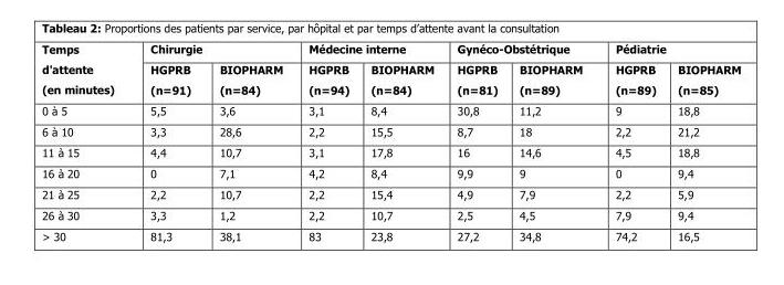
<table><thead><tr><td rowspan="2">Temps d&#x27;attente (en minutes)</td><td colspan="2">Chirurgie</td><td colspan="2">Médecine interne</td><td colspan="2">Gynéco-Obstétrique</td><td colspan="2">Pédiatrie</td></tr><tr><td>HGPRB (n=91)</td><td>BIOPHARM (n=84)</td><td>HGPRB (n=94)</td><td>BIOPHARM (n=84)</td><td>HGPRB (n=81)</td><td>BIOPHARM (n=89)</td><td>HGPRB (n=89)</td><td>BIOPHARM (n=85)</td></tr></thead><tbody><tr><td>0 à 5</td><td>5,5</td><td>3,6</td><td>3,1</td><td>8,4</td><td>30,8</td><td>11,2</td><td>9</td><td>18,8</td></tr><tr><td>6 à 10</td><td>3,3</td><td>28,6</td><td>2,2</td><td>15,5</td><td>8,7</td><td>18</td><td>2,2</td><td>21,2</td></tr><tr><td>11 à 15</td><td>4,4</td><td>10,7</td><td>3,1</td><td>17,8</td><td>16</td><td>14,6</td><td>4,5</td><td>18,8</td></tr><tr><td>16 à 20</td><td>0</td><td>7,1</td><td>4,2</td><td>8,4</td><td>9,9</td><td>9</td><td>0</td><td>9,4</td></tr><tr><td>21 à 25</td><td>2,2</td><td>10,7</td><td>2,2</td><td>15,4</td><td>4,9</td><td>7,9</td><td>2,2</td><td>5,9</td></tr><tr><td>26 à 30</td><td>3,3</td><td>1,2</td><td>2,2</td><td>10,7</td><td>2,5</td><td>4,5</td><td>7,9</td><td>9,4</td></tr><tr><td>&gt; 30</td><td>81,3</td><td>38,1</td><td>83</td><td>23,8</td><td>27,2</td><td>34,8</td><td>74,2</td><td>16,5</td></tr></tbody></table>